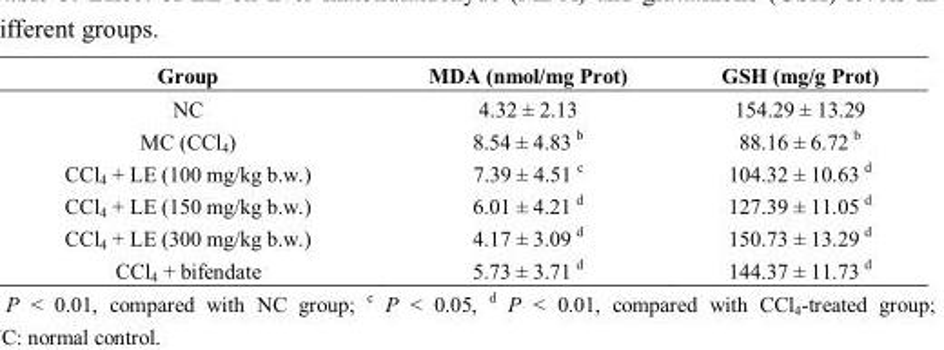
<table><thead><tr><td>Group</td><td>MDA (nmol/mg Prot)</td><td>GSH (mg/g Prot)</td></tr></thead><tbody><tr><td>NC</td><td>4.32 ± 2.13</td><td>154.29 ± 13.29</td></tr><tr><td>MC (CCl<sub>4</sub>)</td><td>8.54 ± 4.83 b</td><td>88.16 ± 6.72 b</td></tr><tr><td>CCl<sub>4</sub> + LE (100 mg/kg b.w.)</td><td>7.39 ± 4.51 c</td><td>104.32 ± 10.63 d</td></tr><tr><td>CCl<sub>4</sub> + LE (150 mg/kg b.w.)</td><td>6.01 ± 4.21 d</td><td>127.39 ± 11.05 d</td></tr><tr><td>CCl<sub>4</sub> + LE (300 mg/kg b.w.)</td><td>4.17 ± 3.09 d</td><td>150.73 ± 13.29 d</td></tr><tr><td>CCl<sub>4</sub> + bifendate</td><td>5.73 ± 3.71 d</td><td>144.37 ± 11.73 d</td></tr></tbody></table>